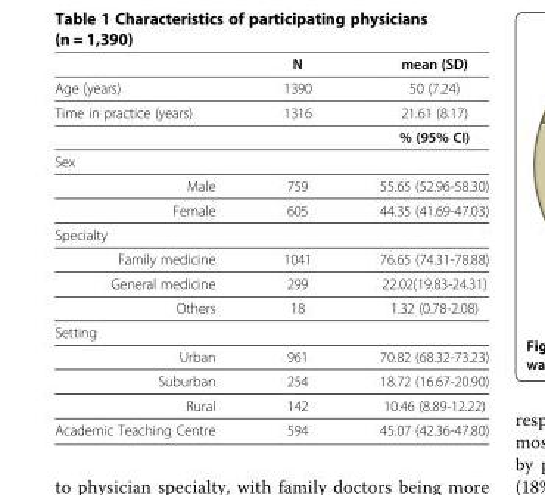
<table><thead><tr><td></td><td>N</td><td>mean (SD)</td></tr></thead><tbody><tr><td>Age (years)</td><td>1390</td><td>50 (7.24)</td></tr><tr><td rowspan="2">Time in practice (years)</td><td>1316</td><td>21.61 (8.17)</td></tr><tr><td></td><td>% (95% CI)</td></tr><tr><td colspan="3">Sex</td></tr><tr><td>Male</td><td>759</td><td>55.65 (52.96-58.30)</td></tr><tr><td>Female</td><td>605</td><td>44.35 (41.69-47.03)</td></tr><tr><td colspan="3">Specialty</td></tr><tr><td>Family medicine</td><td>1041</td><td>76.65 (74.31-78.88)</td></tr><tr><td>General medicine</td><td>299</td><td>22.02(19.83-24.31)</td></tr><tr><td>Others</td><td>18</td><td>1.32 (0.78-2.08)</td></tr><tr><td colspan="3">Setting</td></tr><tr><td>Urban</td><td>961</td><td>70.82 (68.32-73.23)</td></tr><tr><td>Suburban</td><td>254</td><td>18.72 (16.67-20.90)</td></tr><tr><td>Rural</td><td>142</td><td>10.46 (8.89-12.22)</td></tr><tr><td>Academic Teaching Centre</td><td>594</td><td>45.07 (42.36-47.80)</td></tr></tbody></table>